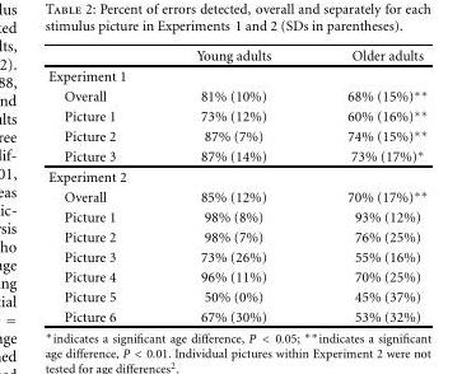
<table><thead><tr><td></td><td>Young adults</td><td>Older adults</td></tr></thead><tbody><tr><td colspan="3">Experiment 1</td></tr><tr><td>Overall</td><td>81% (10%)</td><td>68% (15%)∗∗</td></tr><tr><td>Picture 1</td><td>73% (12%)</td><td>60% (16%)∗∗</td></tr><tr><td>Picture 2</td><td>87% (7%)</td><td>74% (15%)∗∗</td></tr><tr><td>Picture 3</td><td>87% (14%)</td><td>73% (17%)∗</td></tr><tr><td colspan="3">Experiment 2</td></tr><tr><td>Overall</td><td>85% (12%)</td><td>70% (17%)∗∗</td></tr><tr><td>Picture 1</td><td>98% (8%)</td><td>93% (12%)</td></tr><tr><td>Picture 2</td><td>98% (7%)</td><td>76% (25%)</td></tr><tr><td>Picture 3</td><td>73% (26%)</td><td>55% (16%)</td></tr><tr><td>Picture 4</td><td>96% (11%)</td><td>70% (25%)</td></tr><tr><td>Picture 5</td><td>50% (0%)</td><td>45% (37%)</td></tr><tr><td>Picture 6</td><td>67% (30%)</td><td>53% (32%)</td></tr></tbody></table>